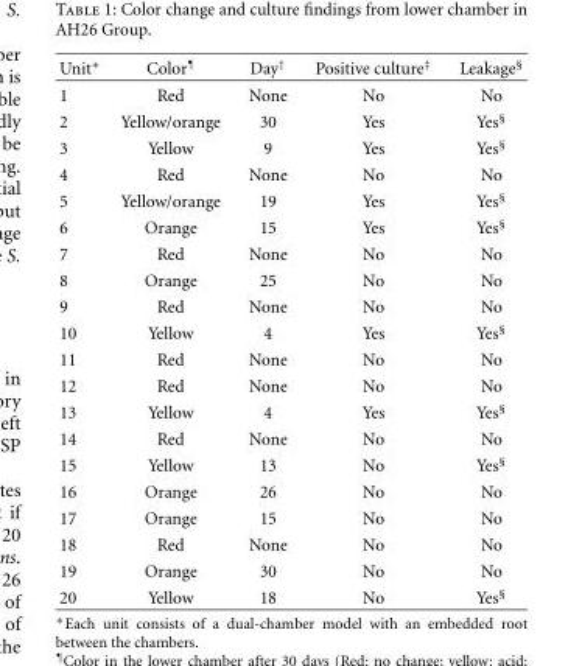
<table><thead><tr><td>Unit∗</td><td>Color<sup>¶</sup></td><td>Day<sup>†</sup></td><td>Positive culture<sup>‡</sup></td><td>Leakage<sup>§</sup></td></tr></thead><tbody><tr><td>1</td><td>Red</td><td>None</td><td>No</td><td>No</td></tr><tr><td>2</td><td>Yellow/orange</td><td>30</td><td>Yes</td><td>Yes<sup>§</sup></td></tr><tr><td>3</td><td>Yellow</td><td>9</td><td>Yes</td><td>Yes<sup>§</sup></td></tr><tr><td>4</td><td>Red</td><td>None</td><td>No</td><td>No</td></tr><tr><td>5</td><td>Yellow/orange</td><td>19</td><td>Yes</td><td>Yes<sup>§</sup></td></tr><tr><td>6</td><td>Orange</td><td>15</td><td>Yes</td><td>Yes<sup>§</sup></td></tr><tr><td>7</td><td>Red</td><td>None</td><td>No</td><td>No</td></tr><tr><td>8</td><td>Orange</td><td>25</td><td>No</td><td>No</td></tr><tr><td>9</td><td>Red</td><td>None</td><td>No</td><td>No</td></tr><tr><td>10</td><td>Yellow</td><td>4</td><td>Yes</td><td>Yes<sup>§</sup></td></tr><tr><td>11</td><td>Red</td><td>None</td><td>No</td><td>No</td></tr><tr><td>12</td><td>Red</td><td>None</td><td>No</td><td>No</td></tr><tr><td>13</td><td>Yellow</td><td>4</td><td>Yes</td><td>Yes<sup>§</sup></td></tr><tr><td>14</td><td>Red</td><td>None</td><td>No</td><td>No</td></tr><tr><td>15</td><td>Yellow</td><td>13</td><td>No</td><td>Yes<sup>§</sup></td></tr><tr><td>16</td><td>Orange</td><td>26</td><td>No</td><td>No</td></tr><tr><td>17</td><td>Orange</td><td>15</td><td>No</td><td>No</td></tr><tr><td>18</td><td>Red</td><td>None</td><td>No</td><td>No</td></tr><tr><td>19</td><td>Orange</td><td>30</td><td>No</td><td>No</td></tr><tr><td>20</td><td>Yellow</td><td>18</td><td>No</td><td>Yes<sup>§</sup></td></tr></tbody></table>